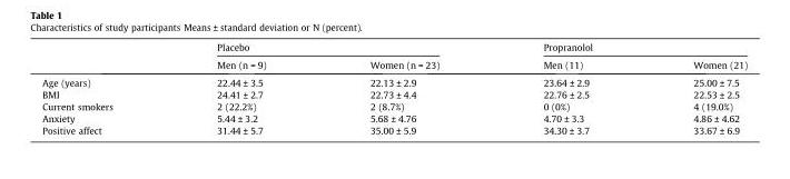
<table><thead><tr><td rowspan="2"></td><td colspan="2">Placebo</td><td colspan="2">Propranolol</td></tr><tr><td>Men (n = 9)</td><td>Women (n = 23)</td><td>Men (11)</td><td>Women (21)</td></tr></thead><tbody><tr><td>Age (years)</td><td>22.44 ± 3.5</td><td>22.13 ± 2.9</td><td>23.64 ± 2.9</td><td>25.00 ± 7.5</td></tr><tr><td>BMI</td><td>24.41 ± 2.7</td><td>22.73 ± 4.4</td><td>22.76 ± 2.5</td><td>22.53 ± 2.5</td></tr><tr><td>Current smokers</td><td>2 (22.2%)</td><td>2 (8.7%)</td><td>0 (0%)</td><td>4 (19.0%)</td></tr><tr><td>Anxiety</td><td>5.44 ± 3.2</td><td>5.68 ± 4.76</td><td>4.70 ± 3.3</td><td>4.86 ± 4.62</td></tr><tr><td>Positive affect</td><td>31.44 ± 5.7</td><td>35.00 ± 5.9</td><td>34.30 ± 3.7</td><td>33.67 ± 6.9</td></tr></tbody></table>